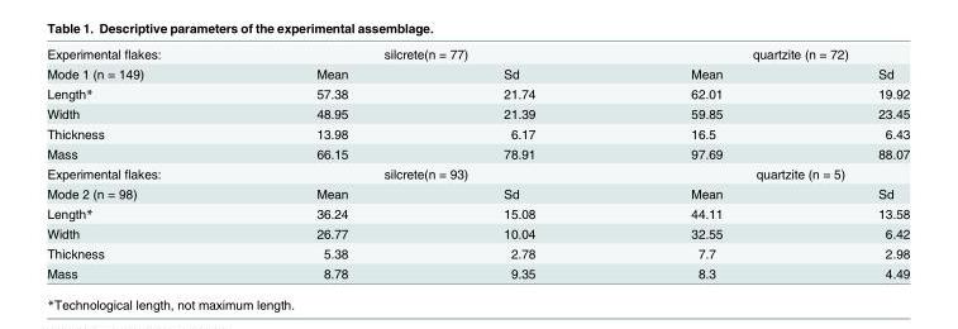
<table><tbody><tr><td>Experimental flakes:</td><td colspan="2">silcrete(n = 77)</td><td colspan="2">quartzite (n = 72)</td></tr><tr><td>Mode 1 (n = 149)</td><td>Mean</td><td>Sd</td><td>Mean</td><td>Sd</td></tr><tr><td>Length*</td><td>57.38</td><td>21.74</td><td>62.01</td><td>19.92</td></tr><tr><td>Width</td><td>48.95</td><td>21.39</td><td>59.85</td><td>23.45</td></tr><tr><td>Thickness</td><td>13.98</td><td>6.17</td><td>16.5</td><td>6.43</td></tr><tr><td>Mass</td><td>66.15</td><td>78.91</td><td>97.69</td><td>88.07</td></tr><tr><td>Experimental flakes:</td><td colspan="2">silcrete(n = 93)</td><td colspan="2">quartzite (n = 5)</td></tr><tr><td>Mode 2 (n = 98)</td><td>Mean</td><td>Sd</td><td>Mean</td><td>Sd</td></tr><tr><td>Length*</td><td>36.24</td><td>15.08</td><td>44.11</td><td>13.58</td></tr><tr><td>Width</td><td>26.77</td><td>10.04</td><td>32.55</td><td>6.42</td></tr><tr><td>Thickness</td><td>5.38</td><td>2.78</td><td>7.7</td><td>2.98</td></tr><tr><td>Mass</td><td>8.78</td><td>9.35</td><td>8.3</td><td>4.49</td></tr></tbody></table>